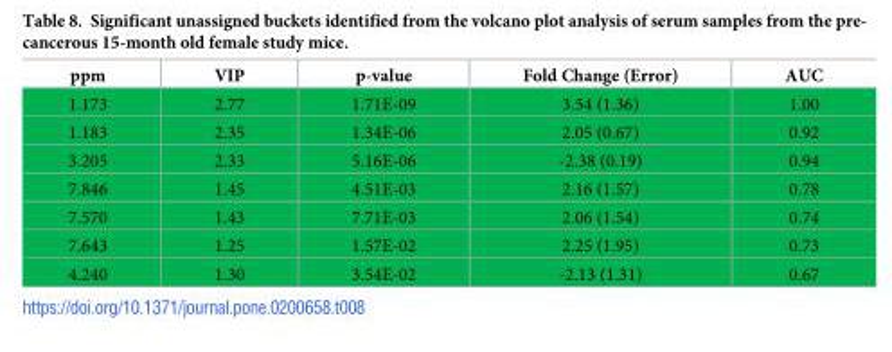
<table><thead><tr><td>ppm</td><td>VIP</td><td>p-value</td><td>Fold Change (Error)</td><td>AUC</td></tr></thead><tbody><tr><td>1.173</td><td>2.77</td><td>1.71E-09</td><td>3.54 (1.36)</td><td>1.00</td></tr><tr><td>1.183</td><td>2.35</td><td>1.34E-06</td><td>2.05 (0.67)</td><td>0.92</td></tr><tr><td>3.205</td><td>2.33</td><td>5.16E-06</td><td>-2.38 (0.19)</td><td>0.94</td></tr><tr><td>7.846</td><td>1.45</td><td>4.51E-03</td><td>2.16 (1.57)</td><td>0.78</td></tr><tr><td>7.570</td><td>1.43</td><td>7.71E-03</td><td>2.06 (1.54)</td><td>0.74</td></tr><tr><td>7.643</td><td>1.25</td><td>1.57E-02</td><td>2.25 (1.95)</td><td>0.73</td></tr><tr><td>4.240</td><td>1.30</td><td>3.54E-02</td><td>-2.13 (1.31)</td><td>0.67</td></tr></tbody></table>